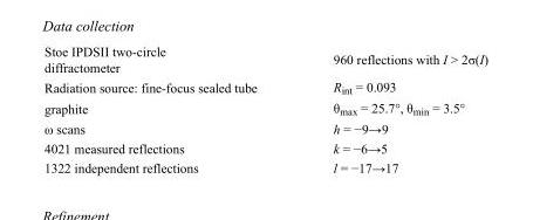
<table><tbody><tr><td>Stoe IPDSII two-circle diffractometer</td><td>960 reflections with I &gt; 2σ(I)</td></tr><tr><td>Radiation source: fine-focus sealed tube</td><td>R<sub>int</sub> = 0.093</td></tr><tr><td>graphite</td><td>θ<sub>max</sub> = 25.7°, θ<sub>min</sub> = 3.5°</td></tr><tr><td>ω scans</td><td>h = −9→9</td></tr><tr><td>4021 measured reflections</td><td>k = −6→5</td></tr><tr><td>1322 independent reflections</td><td>l = −17→17</td></tr></tbody></table>